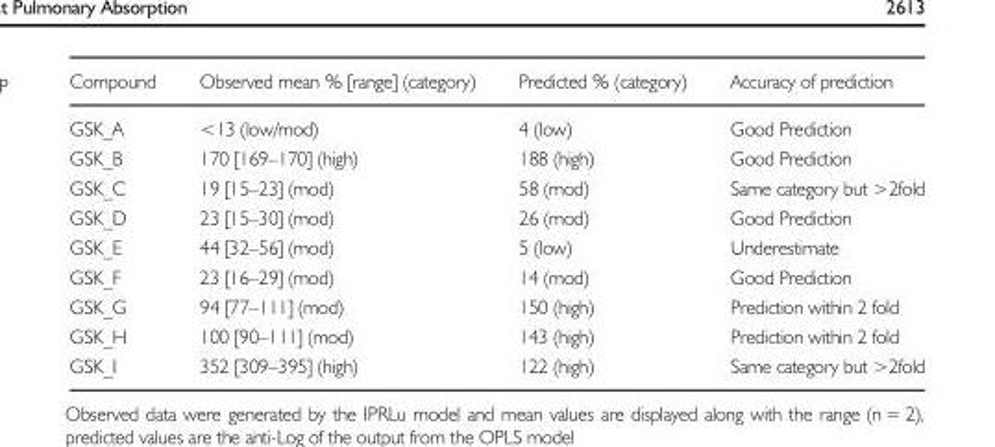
<table><thead><tr><td>Compound</td><td>Observed mean % [range] (category)</td><td>Predicted % (category)</td><td>Accuracy of prediction</td></tr></thead><tbody><tr><td>GSK_A</td><td>&lt;13 (low/mod)</td><td>4 (low)</td><td>Good Prediction</td></tr><tr><td>GSK_B</td><td>170 [169–170] (high)</td><td>188 (high)</td><td>Good Prediction</td></tr><tr><td>GSK_C</td><td>19 [15–23] (mod)</td><td>58 (mod)</td><td>Same category but &gt;2fold</td></tr><tr><td>GSK_D</td><td>23 [15–30] (mod)</td><td>26 (mod)</td><td>Good Prediction</td></tr><tr><td>GSK_E</td><td>44 [32–56] (mod)</td><td>5 (low)</td><td>Underestimate</td></tr><tr><td>GSK_F</td><td>23 [16–29] (mod)</td><td>14 (mod)</td><td>Good Prediction</td></tr><tr><td>GSK_G</td><td>94 [77–111] (mod)</td><td>150 (high)</td><td>Prediction within 2 fold</td></tr><tr><td>GSK_H</td><td>100 [90–111] (mod)</td><td>143 (high)</td><td>Prediction within 2 fold</td></tr><tr><td>GSK_I</td><td>352 [309–395] (high)</td><td>122 (high)</td><td>Same category but &gt;2fold</td></tr></tbody></table>